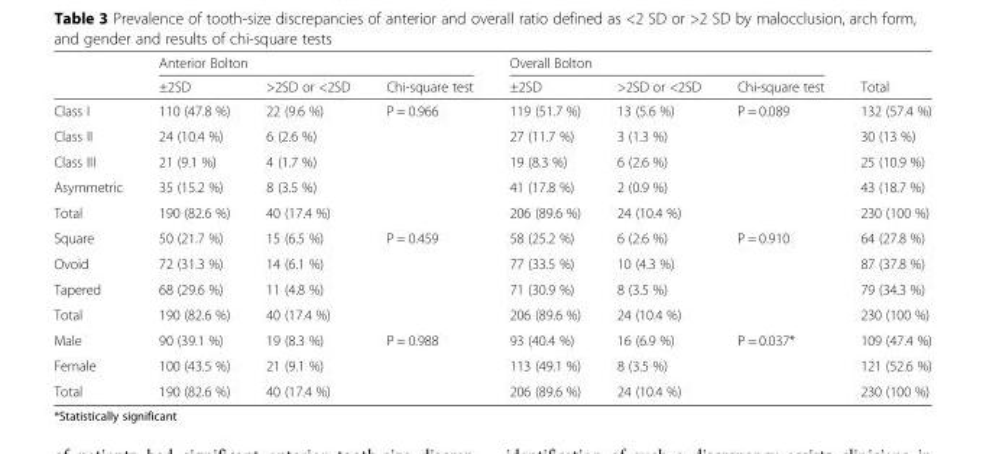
<table><thead><tr><td rowspan="2"></td><td colspan="3">Anterior Bolton</td><td colspan="3">Overall Bolton</td><td rowspan="2">Total</td></tr><tr><td>±2SD</td><td>&gt;2SD or &lt;2SD</td><td>Chi-square test</td><td>±2SD</td><td>&gt;2SD or &lt;2SD</td><td>Chi-square test</td></tr></thead><tbody><tr><td>Class I</td><td>110 (47.8 %)</td><td>22 (9.6 %)</td><td rowspan="4">P = 0.966</td><td>119 (51.7 %)</td><td>13 (5.6 %)</td><td rowspan="4">P = 0.089</td><td>132 (57.4 %)</td></tr><tr><td>Class II</td><td>24 (10.4 %)</td><td>6 (2.6 %)</td><td>27 (11.7 %)</td><td>3 (1.3 %)</td><td>30 (13 %)</td></tr><tr><td>Class III</td><td>21 (9.1 %)</td><td>4 (1.7 %)</td><td>19 (8.3 %)</td><td>6 (2.6 %)</td><td>25 (10.9 %)</td></tr><tr><td>Asymmetric</td><td>35 (15.2 %)</td><td>8 (3.5 %)</td><td>41 (17.8 %)</td><td>2 (0.9 %)</td><td>43 (18.7 %)</td></tr><tr><td>Total</td><td>190 (82.6 %)</td><td>40 (17.4 %)</td><td></td><td>206 (89.6 %)</td><td>24 (10.4 %)</td><td></td><td>230 (100 %)</td></tr><tr><td>Square</td><td>50 (21.7 %)</td><td>15 (6.5 %)</td><td rowspan="3">P = 0.459</td><td>58 (25.2 %)</td><td>6 (2.6 %)</td><td rowspan="3">P = 0.910</td><td>64 (27.8 %)</td></tr><tr><td>Ovoid</td><td>72 (31.3 %)</td><td>14 (6.1 %)</td><td>77 (33.5 %)</td><td>10 (4.3 %)</td><td>87 (37.8 %)</td></tr><tr><td>Tapered</td><td>68 (29.6 %)</td><td>11 (4.8 %)</td><td>71 (30.9 %)</td><td>8 (3.5 %)</td><td>79 (34.3 %)</td></tr><tr><td>Total</td><td>190 (82.6 %)</td><td>40 (17.4 %)</td><td></td><td>206 (89.6 %)</td><td>24 (10.4 %)</td><td></td><td>230 (100 %)</td></tr><tr><td>Male</td><td>90 (39.1 %)</td><td>19 (8.3 %)</td><td rowspan="2">P = 0.988</td><td>93 (40.4 %)</td><td>16 (6.9 %)</td><td rowspan="2">P = 0.037*</td><td>109 (47.4 %)</td></tr><tr><td>Female</td><td>100 (43.5 %)</td><td>21 (9.1 %)</td><td>113 (49.1 %)</td><td>8 (3.5 %)</td><td>121 (52.6 %)</td></tr><tr><td>Total</td><td>190 (82.6 %)</td><td>40 (17.4 %)</td><td></td><td>206 (89.6 %)</td><td>24 (10.4 %)</td><td></td><td>230 (100 %)</td></tr></tbody></table>